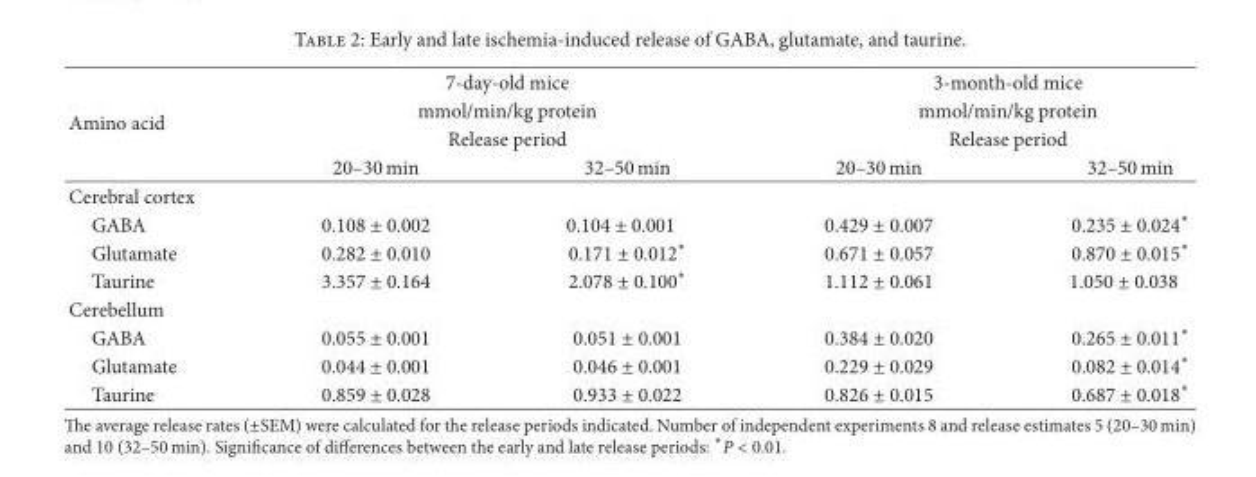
<table><thead><tr><td rowspan="4">Amino acid</td><td rowspan="3" colspan="2">7-day-old mice mmol/min/kg protein Release period</td><td rowspan="3" colspan="2">3-month-old mice mmol/min/kg protein Release period</td></tr><tr></tr><tr></tr><tr><td>20–30 min</td><td>32–50 min</td><td>20–30 min</td><td>32–50 min</td></tr></thead><tbody><tr><td colspan="5">Cerebral cortex</td></tr><tr><td>GABA</td><td>0.108 ± 0.002</td><td>0.104 ± 0.001</td><td>0.429 ± 0.007</td><td>0.235 ± 0.024∗</td></tr><tr><td>Glutamate</td><td>0.282 ± 0.010</td><td>0.171 ± 0.012∗</td><td>0.671 ± 0.057</td><td>0.870 ± 0.015∗</td></tr><tr><td>Taurine</td><td>3.357 ± 0.164</td><td>2.078 ± 0.100∗</td><td>1.112 ± 0.061</td><td>1.050 ± 0.038</td></tr><tr><td colspan="5">Cerebellum</td></tr><tr><td>GABA</td><td>0.055 ± 0.001</td><td>0.051 ± 0.001</td><td>0.384 ± 0.020</td><td>0.265 ± 0.011∗</td></tr><tr><td>Glutamate</td><td>0.044 ± 0.001</td><td>0.046 ± 0.001</td><td>0.229 ± 0.029</td><td>0.082 ± 0.014∗</td></tr><tr><td>Taurine</td><td>0.859 ± 0.028</td><td>0.933 ± 0.022</td><td>0.826 ± 0.015</td><td>0.687 ± 0.018∗</td></tr></tbody></table>